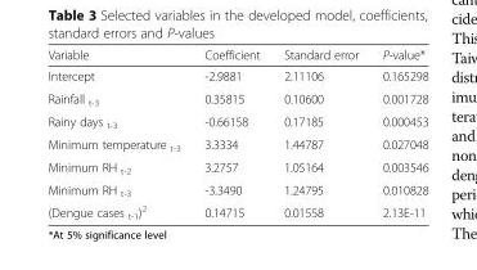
<table><thead><tr><td>Variable</td><td>Coefficient</td><td>Standard error</td><td>P-value*</td></tr></thead><tbody><tr><td>Intercept</td><td>-2.9881</td><td>2.11106</td><td>0.165298</td></tr><tr><td>Rainfall <sub>t-3</sub></td><td>0.35815</td><td>0.10600</td><td>0.001728</td></tr><tr><td>Rainy days <sub>t-3</sub></td><td>-0.66158</td><td>0.17185</td><td>0.000453</td></tr><tr><td>Minimum temperature <sub>t-3</sub></td><td>3.3334</td><td>1.44787</td><td>0.027048</td></tr><tr><td>Minimum RH <sub>t-2</sub></td><td>3.2757</td><td>1.05164</td><td>0.003546</td></tr><tr><td>Minimum RH <sub>t-3</sub></td><td>-3.3490</td><td>1.24795</td><td>0.010828</td></tr><tr><td>(Dengue cases <sub>t-1</sub>)<sup>2</sup></td><td>0.14715</td><td>0.01558</td><td>2.13E-11</td></tr></tbody></table>